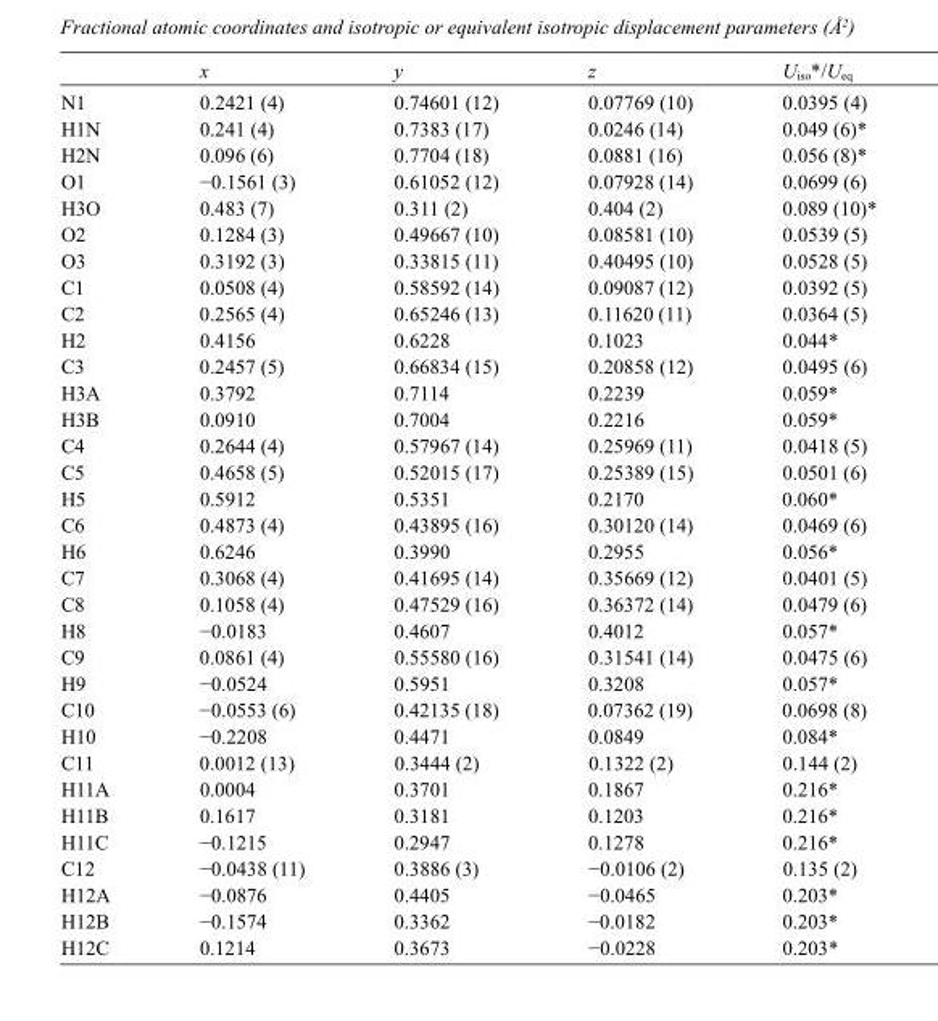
<table><thead><tr><td></td><td>x</td><td>y</td><td>z</td><td>U<sub>iso</sub>*/U<sub>eq</sub></td></tr></thead><tbody><tr><td>N1</td><td>0.2421 (4)</td><td>0.74601 (12)</td><td>0.07769 (10)</td><td>0.0395 (4)</td></tr><tr><td>H1N</td><td>0.241 (4)</td><td>0.7383 (17)</td><td>0.0246 (14)</td><td>0.049 (6)*</td></tr><tr><td>H2N</td><td>0.096 (6)</td><td>0.7704 (18)</td><td>0.0881 (16)</td><td>0.056 (8)*</td></tr><tr><td>O1</td><td>−0.1561 (3)</td><td>0.61052 (12)</td><td>0.07928 (14)</td><td>0.0699 (6)</td></tr><tr><td>H3O</td><td>0.483 (7)</td><td>0.311 (2)</td><td>0.404 (2)</td><td>0.089 (10)*</td></tr><tr><td>O2</td><td>0.1284 (3)</td><td>0.49667 (10)</td><td>0.08581 (10)</td><td>0.0539 (5)</td></tr><tr><td>O3</td><td>0.3192 (3)</td><td>0.33815 (11)</td><td>0.40495 (10)</td><td>0.0528 (5)</td></tr><tr><td>C1</td><td>0.0508 (4)</td><td>0.58592 (14)</td><td>0.09087 (12)</td><td>0.0392 (5)</td></tr><tr><td>C2</td><td>0.2565 (4)</td><td>0.65246 (13)</td><td>0.11620 (11)</td><td>0.0364 (5)</td></tr><tr><td>H2</td><td>0.4156</td><td>0.6228</td><td>0.1023</td><td>0.044*</td></tr><tr><td>C3</td><td>0.2457 (5)</td><td>0.66834 (15)</td><td>0.20858 (12)</td><td>0.0495 (6)</td></tr><tr><td>H3A</td><td>0.3792</td><td>0.7114</td><td>0.2239</td><td>0.059*</td></tr><tr><td>H3B</td><td>0.0910</td><td>0.7004</td><td>0.2216</td><td>0.059*</td></tr><tr><td>C4</td><td>0.2644 (4)</td><td>0.57967 (14)</td><td>0.25969 (11)</td><td>0.0418 (5)</td></tr><tr><td>C5</td><td>0.4658 (5)</td><td>0.52015 (17)</td><td>0.25389 (15)</td><td>0.0501 (6)</td></tr><tr><td>H5</td><td>0.5912</td><td>0.5351</td><td>0.2170</td><td>0.060*</td></tr><tr><td>C6</td><td>0.4873 (4)</td><td>0.43895 (16)</td><td>0.30120 (14)</td><td>0.0469 (6)</td></tr><tr><td>H6</td><td>0.6246</td><td>0.3990</td><td>0.2955</td><td>0.056*</td></tr><tr><td>C7</td><td>0.3068 (4)</td><td>0.41695 (14)</td><td>0.35669 (12)</td><td>0.0401 (5)</td></tr><tr><td>C8</td><td>0.1058 (4)</td><td>0.47529 (16)</td><td>0.36372 (14)</td><td>0.0479 (6)</td></tr><tr><td>H8</td><td>−0.0183</td><td>0.4607</td><td>0.4012</td><td>0.057*</td></tr><tr><td>C9</td><td>0.0861 (4)</td><td>0.55580 (16)</td><td>0.31541 (14)</td><td>0.0475 (6)</td></tr><tr><td>H9</td><td>−0.0524</td><td>0.5951</td><td>0.3208</td><td>0.057*</td></tr><tr><td>C10</td><td>−0.0553 (6)</td><td>0.42135 (18)</td><td>0.07362 (19)</td><td>0.0698 (8)</td></tr><tr><td>H10</td><td>−0.2208</td><td>0.4471</td><td>0.0849</td><td>0.084*</td></tr><tr><td>C11</td><td>0.0012 (13)</td><td>0.3444 (2)</td><td>0.1322 (2)</td><td>0.144 (2)</td></tr><tr><td>H11A</td><td>0.0004</td><td>0.3701</td><td>0.1867</td><td>0.216*</td></tr><tr><td>H11B</td><td>0.1617</td><td>0.3181</td><td>0.1203</td><td>0.216*</td></tr><tr><td>H11C</td><td>−0.1215</td><td>0.2947</td><td>0.1278</td><td>0.216*</td></tr><tr><td>C12</td><td>−0.0438 (11)</td><td>0.3886 (3)</td><td>−0.0106 (2)</td><td>0.135 (2)</td></tr><tr><td>H12A</td><td>−0.0876</td><td>0.4405</td><td>−0.0465</td><td>0.203*</td></tr><tr><td>H12B</td><td>−0.1574</td><td>0.3362</td><td>−0.0182</td><td>0.203*</td></tr><tr><td>H12C</td><td>0.1214</td><td>0.3673</td><td>−0.0228</td><td>0.203*</td></tr></tbody></table>